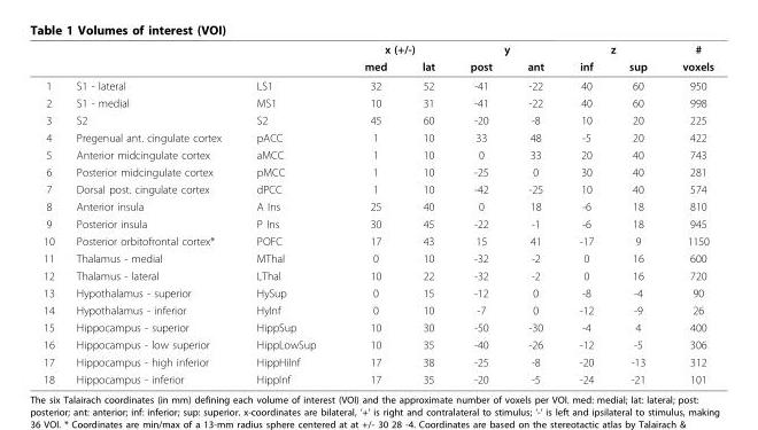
<table><thead><tr><td rowspan="2"></td><td rowspan="2"></td><td rowspan="2"></td><td colspan="2">x (+/-)</td><td colspan="2">y</td><td colspan="2">z</td><td rowspan="2"># voxels</td></tr><tr><td>med</td><td>lat</td><td>post</td><td>ant</td><td>inf</td><td>sup</td></tr></thead><tbody><tr><td>1</td><td>S1 - lateral</td><td>LS1</td><td>32</td><td>52</td><td>-41</td><td>-22</td><td>40</td><td>60</td><td>950</td></tr><tr><td>2</td><td>S1 - medial</td><td>MS1</td><td>10</td><td>31</td><td>-41</td><td>-22</td><td>40</td><td>60</td><td>998</td></tr><tr><td>3</td><td>S2</td><td>S2</td><td>45</td><td>60</td><td>-20</td><td>-8</td><td>10</td><td>20</td><td>225</td></tr><tr><td>4</td><td>Pregenual ant. cingulate cortex</td><td>pACC</td><td>1</td><td>10</td><td>33</td><td>48</td><td>-5</td><td>20</td><td>422</td></tr><tr><td>5</td><td>Anterior midcingulate cortex</td><td>aMCC</td><td>1</td><td>10</td><td>0</td><td>33</td><td>20</td><td>40</td><td>743</td></tr><tr><td>6</td><td>Posterior midcingulate cortex</td><td>pMCC</td><td>1</td><td>10</td><td>-25</td><td>0</td><td>30</td><td>40</td><td>281</td></tr><tr><td>7</td><td>Dorsal post. cingulate cortex</td><td>dPCC</td><td>1</td><td>10</td><td>-42</td><td>-25</td><td>10</td><td>40</td><td>574</td></tr><tr><td>8</td><td>Anterior insula</td><td>A Ins</td><td>25</td><td>40</td><td>0</td><td>18</td><td>-6</td><td>18</td><td>810</td></tr><tr><td>9</td><td>Posterior insula</td><td>P Ins</td><td>30</td><td>45</td><td>-22</td><td>-1</td><td>-6</td><td>18</td><td>945</td></tr><tr><td>10</td><td>Posterior orbitofrontal cortex*</td><td>POFC</td><td>17</td><td>43</td><td>15</td><td>41</td><td>-17</td><td>9</td><td>1150</td></tr><tr><td>11</td><td>Thalamus - medial</td><td>MThal</td><td>0</td><td>10</td><td>-32</td><td>-2</td><td>0</td><td>16</td><td>600</td></tr><tr><td>12</td><td>Thalamus - lateral</td><td>LThal</td><td>10</td><td>22</td><td>-32</td><td>-2</td><td>0</td><td>16</td><td>720</td></tr><tr><td>13</td><td>Hypothalamus - superior</td><td>HySup</td><td>0</td><td>15</td><td>-12</td><td>0</td><td>-8</td><td>-4</td><td>90</td></tr><tr><td>14</td><td>Hypothalamus - inferior</td><td>HyInf</td><td>0</td><td>10</td><td>-7</td><td>0</td><td>-12</td><td>-9</td><td>26</td></tr><tr><td>15</td><td>Hippocampus - superior</td><td>HippSup</td><td>10</td><td>30</td><td>-50</td><td>-30</td><td>-4</td><td>4</td><td>400</td></tr><tr><td>16</td><td>Hippocampus - low superior</td><td>HippLowSup</td><td>10</td><td>35</td><td>-40</td><td>-26</td><td>-12</td><td>-5</td><td>306</td></tr><tr><td>17</td><td>Hippocampus - high inferior</td><td>HippHiInf</td><td>17</td><td>38</td><td>-25</td><td>-8</td><td>-20</td><td>-13</td><td>312</td></tr><tr><td>18</td><td>Hippocampus - inferior</td><td>HippInf</td><td>17</td><td>35</td><td>-20</td><td>-5</td><td>-24</td><td>-21</td><td>101</td></tr></tbody></table>